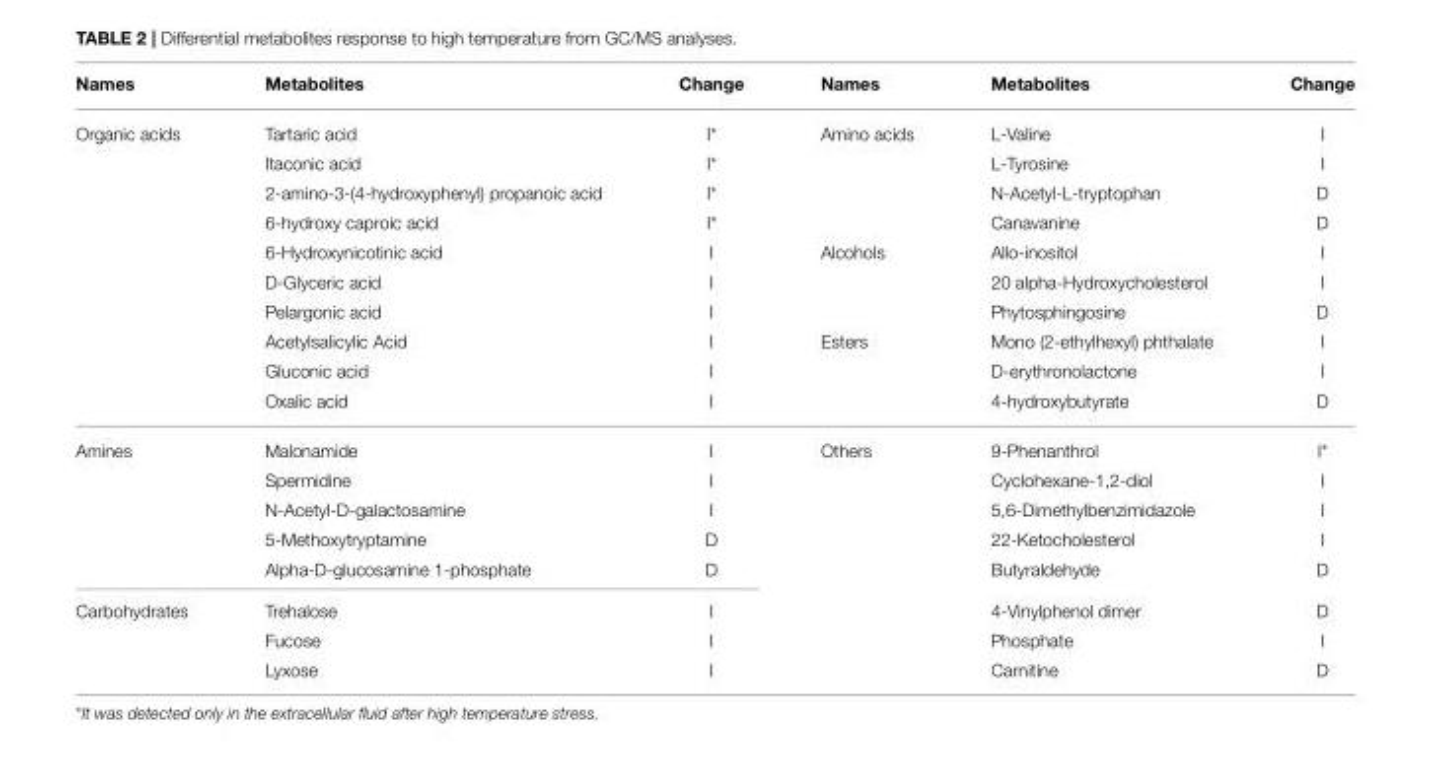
<table><thead><tr><td>Names</td><td>Metabolites</td><td>Change</td><td>Names</td><td>Metabolites</td><td>Change</td></tr></thead><tbody><tr><td rowspan="10">Organic acids</td><td>Tartaric acid</td><td>I*</td><td>Amino acids</td><td>L-Valine</td><td>I</td></tr><tr><td>Itaconic acid</td><td>I*</td><td></td><td>L-Tyrosine</td><td>I</td></tr><tr><td>2-amino-3-(4-hydroxyphenyl) propanoic acid</td><td>I*</td><td></td><td>N-Acetyl-L-tryptophan</td><td>D</td></tr><tr><td>6-hydroxy caproic acid</td><td>I*</td><td></td><td>Canavanine</td><td>D</td></tr><tr><td>6-Hydroxynicotinic acid</td><td>I</td><td>Alcohols</td><td>Allo-inositol</td><td>I</td></tr><tr><td>D-Glyceric acid</td><td>I</td><td></td><td>20 alpha-Hydroxycholesterol</td><td>I</td></tr><tr><td>Pelargonic acid</td><td>I</td><td></td><td>Phytosphingosine</td><td>D</td></tr><tr><td>Acetylsalicylic Acid</td><td>I</td><td>Esters</td><td>Mono (2-ethylhexyl) phthalate</td><td>I</td></tr><tr><td>Gluconic acid</td><td>I</td><td></td><td>D-erythronolactone</td><td>I</td></tr><tr><td>Oxalic acid</td><td>I</td><td></td><td>4-hydroxybutyrate</td><td>D</td></tr><tr><td rowspan="5">Amines</td><td>Malonamide</td><td>I</td><td>Others</td><td>9-Phenanthrol</td><td>I*</td></tr><tr><td>Spermidine</td><td>I</td><td></td><td>Cyclohexane-1,2-diol</td><td>I</td></tr><tr><td>N-Acetyl-D-galactosamine</td><td>I</td><td></td><td>5,6-Dimethylbenzimidazole</td><td>I</td></tr><tr><td>5-Methoxytryptamine</td><td>D</td><td></td><td>22-Ketocholesterol</td><td>I</td></tr><tr><td>Alpha-D-glucosamine 1-phosphate</td><td>D</td><td></td><td>Butyraldehyde</td><td>D</td></tr><tr><td rowspan="3">Carbohydrates</td><td>Trehalose</td><td>I</td><td></td><td>4-Vinylphenol dimer</td><td>D</td></tr><tr><td>Fucose</td><td>I</td><td></td><td>Phosphate</td><td>I</td></tr><tr><td>Lyxose</td><td>I</td><td></td><td>Carnitine</td><td>D</td></tr></tbody></table>